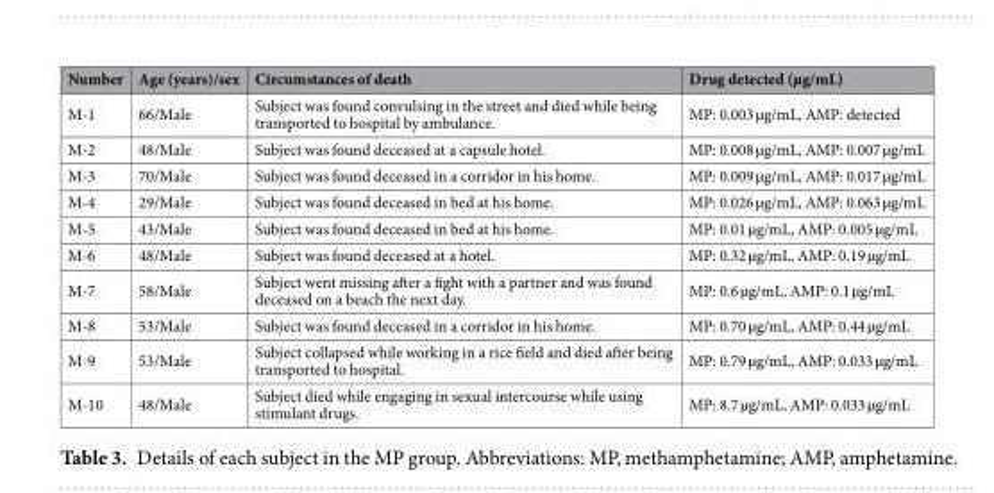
<table><thead><tr><td>Number</td><td>Age (years)/sex</td><td>Circumstances of death</td><td>Drug detected (µg/mL)</td></tr></thead><tbody><tr><td>M-1</td><td>66/Male</td><td>Subject was found convulsing in the street and died while being transported to hospital by ambulance.</td><td>MP: 0.003 µg/mL, AMP: detected</td></tr><tr><td>M-2</td><td>48/Male</td><td>Subject was found deceased at a capsule hotel.</td><td>MP: 0.008 µg/mL, AMP: 0.007 µg/mL</td></tr><tr><td>M-3</td><td>70/Male</td><td>Subject was found deceased in a corridor in his home.</td><td>MP: 0.009 µg/mL, AMP: 0.017 µg/mL</td></tr><tr><td>M-4</td><td>29/Male</td><td>Subject was found deceased in bed at his home.</td><td>MP: 0.026 µg/mL, AMP: 0.063 µg/mL</td></tr><tr><td>M-5</td><td>43/Male</td><td>Subject was found deceased in bed at his home.</td><td>MP: 0.01 µg/mL, AMP: 0.005 µg/mL</td></tr><tr><td>M-6</td><td>48/Male</td><td>Subject was found deceased at a hotel.</td><td>MP: 0.32 µg/mL, AMP: 0.19 µg/mL</td></tr><tr><td>M-7</td><td>58/Male</td><td>Subject went missing after a fight with a partner and was found deceased on a beach the next day.</td><td>MP: 0.6 µg/mL, AMP: 0.1 µg/mL</td></tr><tr><td>M-8</td><td>53/Male</td><td>Subject was found deceased in a corridor in his home.</td><td>MP: 0.70 µg/mL, AMP: 0.44 µg/mL</td></tr><tr><td>M-9</td><td>53/Male</td><td>Subject collapsed while working in a rice field and died after being transported to hospital.</td><td>MP: 0.79 µg/mL, AMP: 0.033 µg/mL</td></tr><tr><td>M-10</td><td>48/Male</td><td>Subject died while engaging in sexual intercourse while using stimulant drugs.</td><td>MP: 8.7 µg/mL, AMP: 0.033 µg/mL</td></tr></tbody></table>